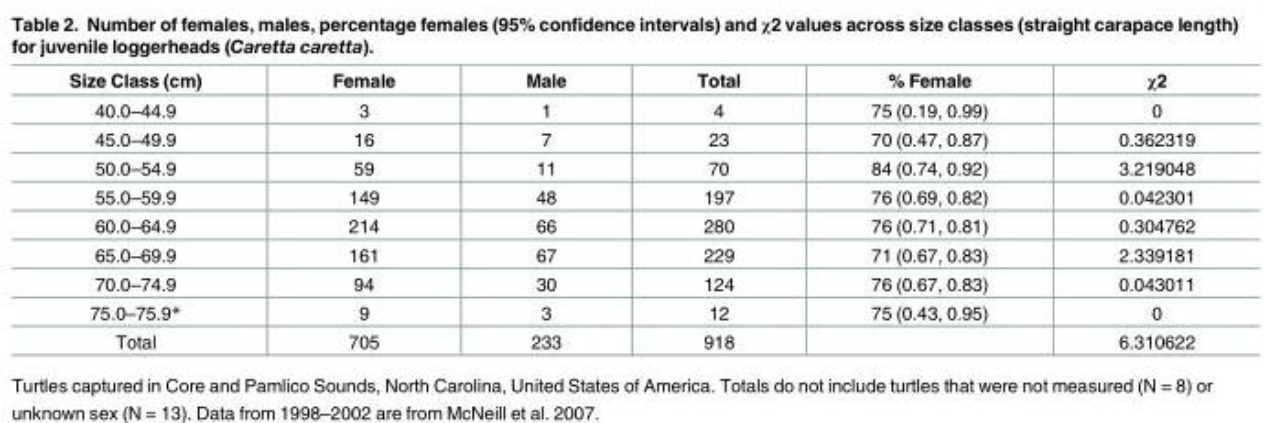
<table><thead><tr><td>Size Class (cm)</td><td>Female</td><td>Male</td><td>Total</td><td>% Female</td><td>χ2</td></tr></thead><tbody><tr><td>40.0–44.9</td><td>3</td><td>1</td><td>4</td><td>75 (0.19, 0.99)</td><td>0</td></tr><tr><td>45.0–49.9</td><td>16</td><td>7</td><td>23</td><td>70 (0.47, 0.87)</td><td>0.362319</td></tr><tr><td>50.0–54.9</td><td>59</td><td>11</td><td>70</td><td>84 (0.74, 0.92)</td><td>3.219048</td></tr><tr><td>55.0–59.9</td><td>149</td><td>48</td><td>197</td><td>76 (0.69, 0.82)</td><td>0.042301</td></tr><tr><td>60.0–64.9</td><td>214</td><td>66</td><td>280</td><td>76 (0.71, 0.81)</td><td>0.304762</td></tr><tr><td>65.0–69.9</td><td>161</td><td>67</td><td>229</td><td>71 (0.67, 0.83)</td><td>2.339181</td></tr><tr><td>70.0–74.9</td><td>94</td><td>30</td><td>124</td><td>76 (0.67, 0.83)</td><td>0.043011</td></tr><tr><td>75.0–75.9*</td><td>9</td><td>3</td><td>12</td><td>75 (0.43, 0.95)</td><td>0</td></tr><tr><td>Total</td><td>705</td><td>233</td><td>918</td><td></td><td>6.310622</td></tr></tbody></table>